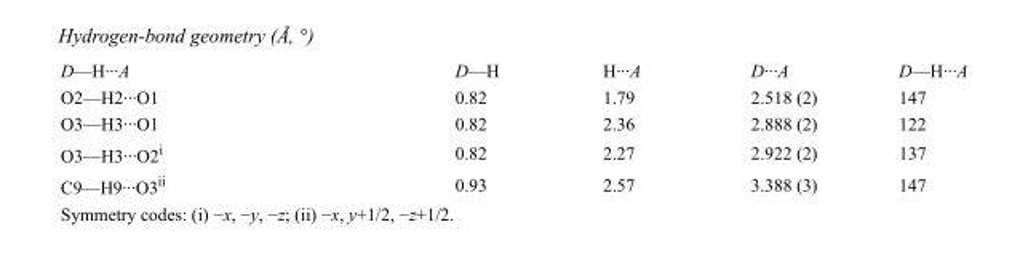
<table><tbody><tr><td>D—H···A</td><td>D—H</td><td>H···A</td><td>D···A</td><td>D—H···A</td></tr><tr><td>O2—H2···O1</td><td>0.82</td><td>1.79</td><td>2.518 (2)</td><td>147</td></tr><tr><td>O3—H3···O1</td><td>0.82</td><td>2.36</td><td>2.888 (2)</td><td>122</td></tr><tr><td>O3—H3···O2<sup>i</sup></td><td>0.82</td><td>2.27</td><td>2.922 (2)</td><td>137</td></tr><tr><td>C9—H9···O3<sup>ii</sup></td><td>0.93</td><td>2.57</td><td>3.388 (3)</td><td>147</td></tr></tbody></table>